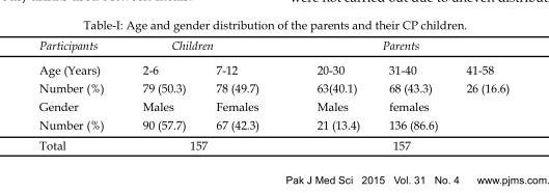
<table><thead><tr><td rowspan="2">Participants Age (Years)</td><td colspan="2">Children</td><td colspan="3">Parents</td></tr><tr><td>2-6</td><td>7-12</td><td>20-30</td><td>31-40</td><td>41-58</td></tr></thead><tbody><tr><td>Number (%)</td><td>79 (50.3)</td><td>78 (49.7)</td><td>63(40.1)</td><td>68 (43.3)</td><td>26 (16.6)</td></tr><tr><td>Gender</td><td>Males</td><td>Females</td><td>Males</td><td>females</td><td></td></tr><tr><td>Number (%)</td><td>90 (57.7)</td><td>67 (42.3)</td><td>21 (13.4)</td><td>136 (86.6)</td><td></td></tr><tr><td>Total</td><td colspan="2">157</td><td colspan="3">157</td></tr></tbody></table>